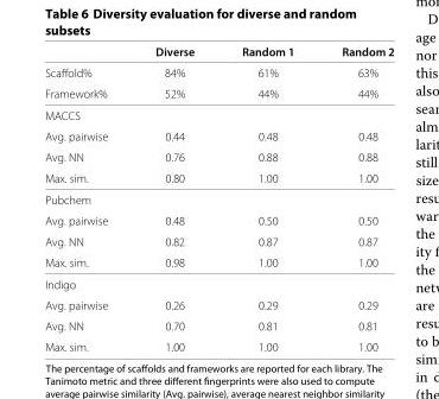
<table><thead><tr><td></td><td>Diverse</td><td>Random 1</td><td>Random 2</td></tr></thead><tbody><tr><td>Scaffold%</td><td>84%</td><td>61%</td><td>63%</td></tr><tr><td>Framework%</td><td>52%</td><td>44%</td><td>44%</td></tr><tr><td colspan="4">MACCS</td></tr><tr><td>Avg. pairwise</td><td>0.44</td><td>0.48</td><td>0.48</td></tr><tr><td>Avg. NN</td><td>0.76</td><td>0.88</td><td>0.88</td></tr><tr><td>Max. sim.</td><td>0.80</td><td>1.00</td><td>1.00</td></tr><tr><td colspan="4">Pubchem</td></tr><tr><td>Avg. pairwise</td><td>0.48</td><td>0.50</td><td>0.50</td></tr><tr><td>Avg. NN</td><td>0.82</td><td>0.87</td><td>0.87</td></tr><tr><td>Max. sim.</td><td>0.98</td><td>1.00</td><td>1.00</td></tr><tr><td colspan="4">Indigo</td></tr><tr><td>Avg. pairwise</td><td>0.26</td><td>0.29</td><td>0.29</td></tr><tr><td>Avg. NN</td><td>0.70</td><td>0.81</td><td>0.81</td></tr><tr><td>Max. sim.</td><td>1.00</td><td>1.00</td><td>1.00</td></tr></tbody></table>